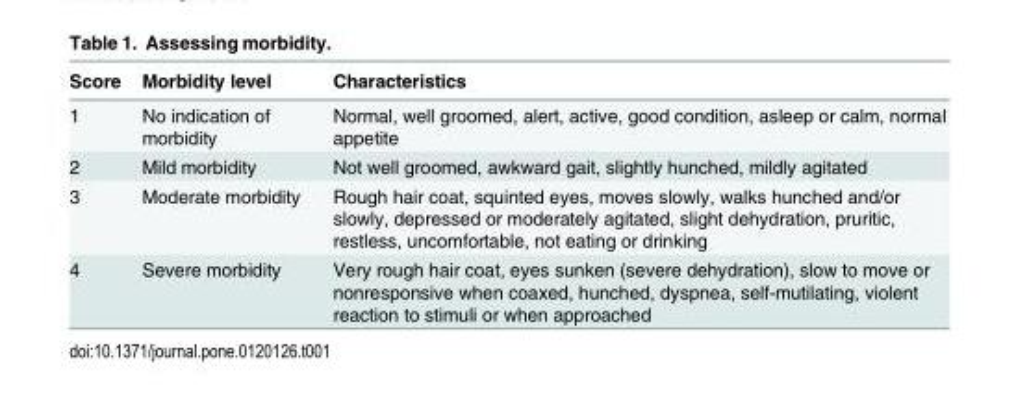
<table><thead><tr><td>Score</td><td>Morbidity level</td><td>Characteristics</td></tr></thead><tbody><tr><td>1</td><td>No indication of morbidity</td><td>Normal, well groomed, alert, active, good condition, asleep or calm, normal appetite</td></tr><tr><td>2</td><td>Mild morbidity</td><td>Not well groomed, awkward gait, slightly hunched, mildly agitated</td></tr><tr><td>3</td><td>Moderate morbidity</td><td>Rough hair coat, squinted eyes, moves slowly, walks hunched and/or slowly, depressed or moderately agitated, slight dehydration, pruritic, restless, uncomfortable, not eating or drinking</td></tr><tr><td>4</td><td>Severe morbidity</td><td>Very rough hair coat, eyes sunken (severe dehydration), slow to move or nonresponsive when coaxed, hunched, dyspnea, self-mutilating, violent reaction to stimuli or when approached</td></tr></tbody></table>